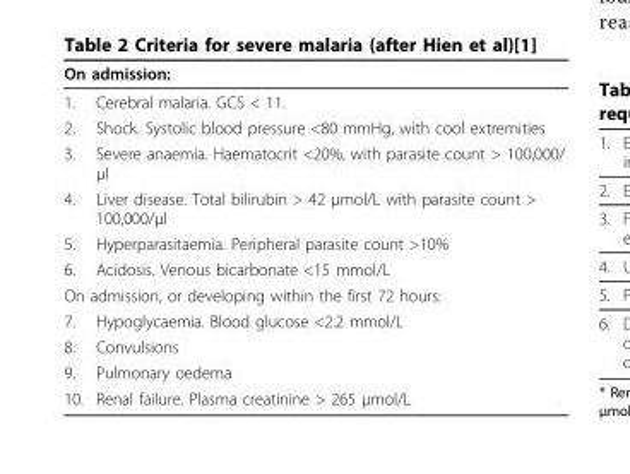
<table><thead><tr><td colspan="2">On admission:</td></tr><tr><td>1.</td><td>Cerebral malaria. GCS &lt; 11.</td></tr></thead><tbody><tr><td>2.</td><td>Shock. Systolic blood pressure &lt;80 mmHg, with cool extremities</td></tr><tr><td>3.</td><td>Severe anaemia. Haematocrit &lt;20%, with parasite count &gt; 100,000/ μl</td></tr><tr><td>4.</td><td>Liver disease. Total bilirubin &gt; 42 μmol/L with parasite count &gt; 100,000/μl</td></tr><tr><td>5.</td><td>Hyperparasitaemia. Peripheral parasite count &gt;10%</td></tr><tr><td>6.</td><td>Acidosis. Venous bicarbonate &lt;15 mmol/L</td></tr><tr><td colspan="2">On admission, or developing within the first 72 hours:</td></tr><tr><td>7.</td><td>Hypoglycaemia. Blood glucose &lt;2.2 mmol/L</td></tr><tr><td>8.</td><td>Convulsions</td></tr><tr><td>9.</td><td>Pulmonary oedema</td></tr><tr><td>10.</td><td>Renal failure. Plasma creatinine &gt; 265 μmol/L</td></tr></tbody></table>